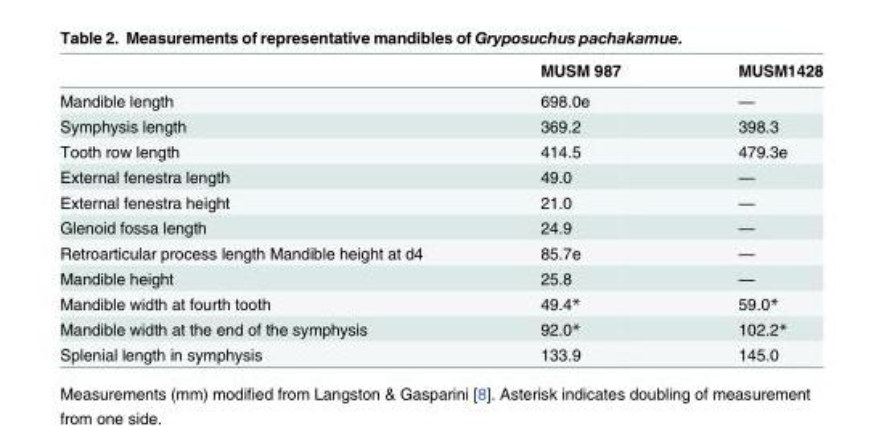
<table><thead><tr><td></td><td>MUSM 987</td><td>MUSM1428</td></tr></thead><tbody><tr><td>Mandible length</td><td>698.0e</td><td>—</td></tr><tr><td>Symphysis length</td><td>369.2</td><td>398.3</td></tr><tr><td>Tooth row length</td><td>414.5</td><td>479.3e</td></tr><tr><td>External fenestra length</td><td>49.0</td><td>—</td></tr><tr><td>External fenestra height</td><td>21.0</td><td>—</td></tr><tr><td>Glenoid fossa length</td><td>24.9</td><td>—</td></tr><tr><td>Retroarticular process length Mandible height at d4</td><td>85.7e</td><td>—</td></tr><tr><td>Mandible height</td><td>25.8</td><td>—</td></tr><tr><td>Mandible width at fourth tooth</td><td>49.4*</td><td>59.0*</td></tr><tr><td>Mandible width at the end of the symphysis</td><td>92.0*</td><td>102.2*</td></tr><tr><td>Splenial length in symphysis</td><td>133.9</td><td>145.0</td></tr></tbody></table>